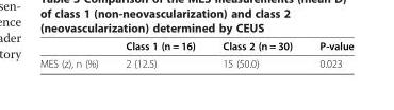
<table><thead><tr><td></td><td>Class 1 (n = 16)</td><td>Class 2 (n = 30)</td><td>P-value</td></tr></thead><tbody><tr><td>MES (z), n (%)</td><td>2 (12.5)</td><td>15 (50.0)</td><td>0.023</td></tr></tbody></table>